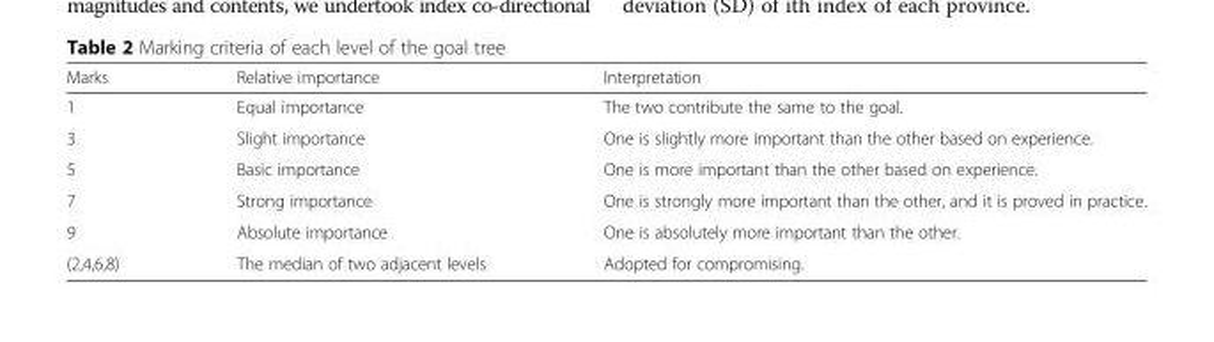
<table><thead><tr><td>Marks</td><td>Relative importance</td><td>Interpretation</td></tr></thead><tbody><tr><td>1</td><td>Equal importance</td><td>The two contribute the same to the goal.</td></tr><tr><td>3</td><td>Slight importance</td><td>One is slightly more important than the other based on experience.</td></tr><tr><td>5</td><td>Basic importance</td><td>One is more important than the other based on experience.</td></tr><tr><td>7</td><td>Strong importance</td><td>One is strongly more important than the other, and it is proved in practice.</td></tr><tr><td>9</td><td>Absolute importance</td><td>One is absolutely more important than the other.</td></tr><tr><td>(2,4,6,8)</td><td>The median of two adjacent levels</td><td>Adopted for compromising.</td></tr></tbody></table>